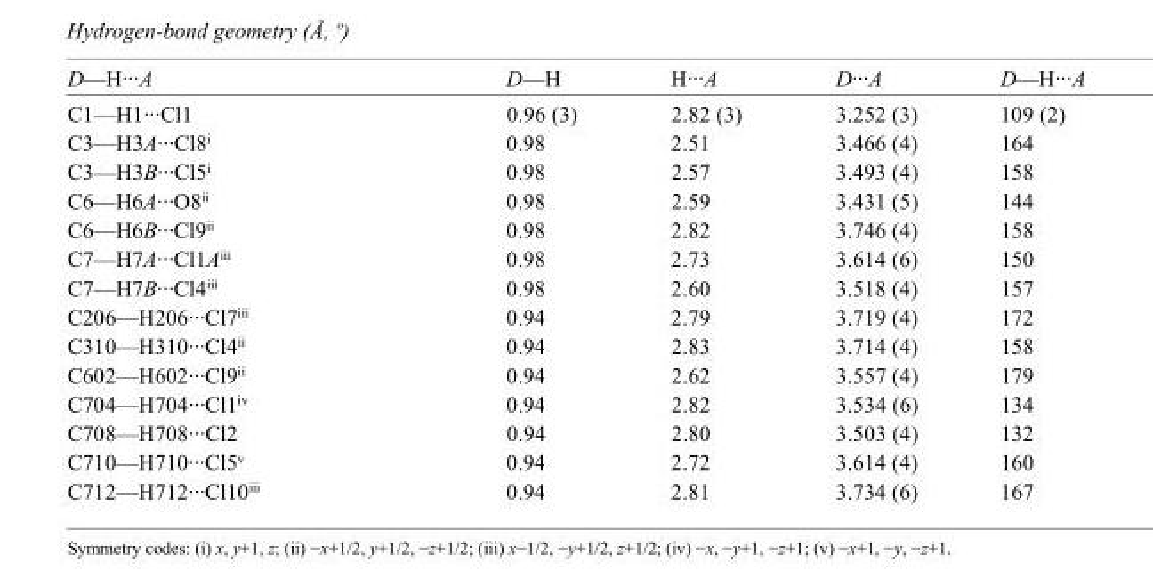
<table><tbody><tr><td>D—H···A</td><td>D—H</td><td>H···A</td><td>D···A</td><td>D—H···A</td></tr><tr><td>C1—H1···Cl1</td><td>0.96 (3)</td><td>2.82 (3)</td><td>3.252 (3)</td><td>109 (2)</td></tr><tr><td>C3—H3A···Cl8<sup>i</sup></td><td>0.98</td><td>2.51</td><td>3.466 (4)</td><td>164</td></tr><tr><td>C3—H3B···Cl5<sup>i</sup></td><td>0.98</td><td>2.57</td><td>3.493 (4)</td><td>158</td></tr><tr><td>C6—H6A···O8<sup>ii</sup></td><td>0.98</td><td>2.59</td><td>3.431 (5)</td><td>144</td></tr><tr><td>C6—H6B···Cl9<sup>ii</sup></td><td>0.98</td><td>2.82</td><td>3.746 (4)</td><td>158</td></tr><tr><td>C7—H7A···Cl1A<sup>iii</sup></td><td>0.98</td><td>2.73</td><td>3.614 (6)</td><td>150</td></tr><tr><td>C7—H7B···Cl4<sup>iii</sup></td><td>0.98</td><td>2.60</td><td>3.518 (4)</td><td>157</td></tr><tr><td>C206—H206···Cl7<sup>iii</sup></td><td>0.94</td><td>2.79</td><td>3.719 (4)</td><td>172</td></tr><tr><td>C310—H310···Cl4<sup>ii</sup></td><td>0.94</td><td>2.83</td><td>3.714 (4)</td><td>158</td></tr><tr><td>C602—H602···Cl9<sup>ii</sup></td><td>0.94</td><td>2.62</td><td>3.557 (4)</td><td>179</td></tr><tr><td>C704—H704···Cl1<sup>iv</sup></td><td>0.94</td><td>2.82</td><td>3.534 (6)</td><td>134</td></tr><tr><td>C708—H708···Cl2</td><td>0.94</td><td>2.80</td><td>3.503 (4)</td><td>132</td></tr><tr><td>C710—H710···Cl5<sup>v</sup></td><td>0.94</td><td>2.72</td><td>3.614 (4)</td><td>160</td></tr><tr><td>C712—H712···Cl10<sup>iii</sup></td><td>0.94</td><td>2.81</td><td>3.734 (6)</td><td>167</td></tr></tbody></table>